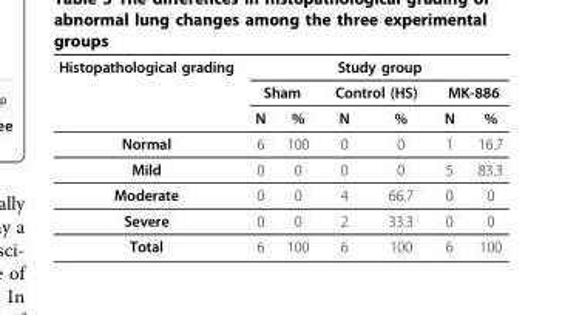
<table><thead><tr><td rowspan="3">Histopathological grading</td><td colspan="6">Study group</td></tr><tr><td colspan="2">Sham</td><td colspan="2">Control (HS)</td><td colspan="2">MK-886</td></tr><tr><td>N</td><td>%</td><td>N</td><td>%</td><td>N</td><td>%</td></tr></thead><tbody><tr><td>Normal</td><td>6</td><td>100</td><td>0</td><td>0</td><td>1</td><td>16.7</td></tr><tr><td>Mild</td><td>0</td><td>0</td><td>0</td><td>0</td><td>5</td><td>83.3</td></tr><tr><td>Moderate</td><td>0</td><td>0</td><td>4</td><td>66.7</td><td>0</td><td>0</td></tr><tr><td>Severe</td><td>0</td><td>0</td><td>2</td><td>33.3</td><td>0</td><td>0</td></tr><tr><td>Total</td><td>6</td><td>100</td><td>6</td><td>100</td><td>6</td><td>100</td></tr></tbody></table>